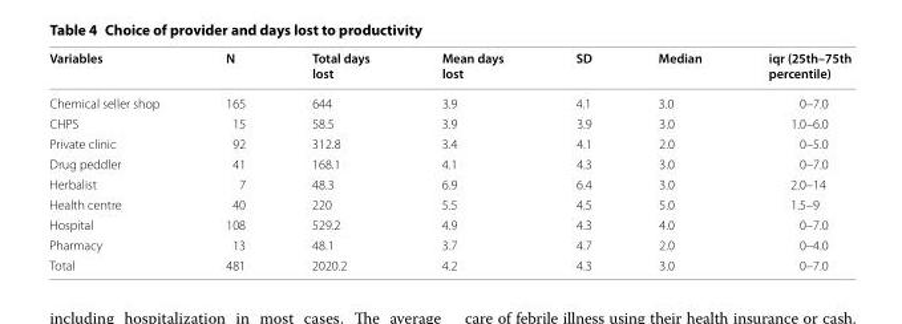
<table><thead><tr><td>Variables</td><td>N</td><td>Total days lost</td><td>Mean days lost</td><td>SD</td><td>Median</td><td>iqr (25th–75th percentile)</td></tr></thead><tbody><tr><td>Chemical seller shop</td><td>165</td><td>644</td><td>3.9</td><td>4.1</td><td>3.0</td><td>0–7.0</td></tr><tr><td>CHPS</td><td>15</td><td>58.5</td><td>3.9</td><td>3.9</td><td>3.0</td><td>1.0–6.0</td></tr><tr><td>Private clinic</td><td>92</td><td>312.8</td><td>3.4</td><td>4.1</td><td>2.0</td><td>0–5.0</td></tr><tr><td>Drug peddler</td><td>41</td><td>168.1</td><td>4.1</td><td>4.3</td><td>3.0</td><td>0–7.0</td></tr><tr><td>Herbalist</td><td>7</td><td>48.3</td><td>6.9</td><td>6.4</td><td>3.0</td><td>2.0–14</td></tr><tr><td>Health centre</td><td>40</td><td>220</td><td>5.5</td><td>4.5</td><td>5.0</td><td>1.5–9</td></tr><tr><td>Hospital</td><td>108</td><td>529.2</td><td>4.9</td><td>4.3</td><td>4.0</td><td>0–7.0</td></tr><tr><td>Pharmacy</td><td>13</td><td>48.1</td><td>3.7</td><td>4.7</td><td>2.0</td><td>0–4.0</td></tr><tr><td>Total</td><td>481</td><td>2020.2</td><td>4.2</td><td>4.3</td><td>3.0</td><td>0–7.0</td></tr></tbody></table>